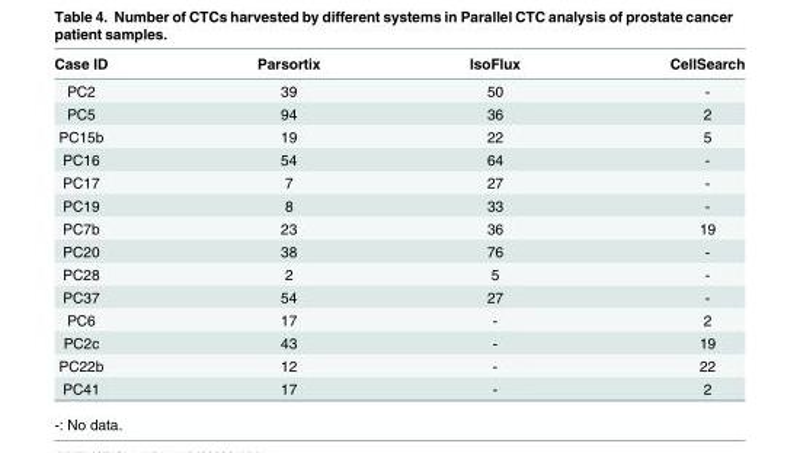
<table><thead><tr><td>Case ID</td><td>Parsortix</td><td>IsoFlux</td><td>CellSearch</td></tr></thead><tbody><tr><td>PC2</td><td>39</td><td>50</td><td>-</td></tr><tr><td>PC5</td><td>94</td><td>36</td><td>2</td></tr><tr><td>PC15b</td><td>19</td><td>22</td><td>5</td></tr><tr><td>PC16</td><td>54</td><td>64</td><td>-</td></tr><tr><td>PC17</td><td>7</td><td>27</td><td>-</td></tr><tr><td>PC19</td><td>8</td><td>33</td><td>-</td></tr><tr><td>PC7b</td><td>23</td><td>36</td><td>19</td></tr><tr><td>PC20</td><td>38</td><td>76</td><td>-</td></tr><tr><td>PC28</td><td>2</td><td>5</td><td>-</td></tr><tr><td>PC37</td><td>54</td><td>27</td><td>-</td></tr><tr><td>PC6</td><td>17</td><td>-</td><td>2</td></tr><tr><td>PC2c</td><td>43</td><td>-</td><td>19</td></tr><tr><td>PC22b</td><td>12</td><td>-</td><td>22</td></tr><tr><td>PC41</td><td>17</td><td>-</td><td>2</td></tr></tbody></table>